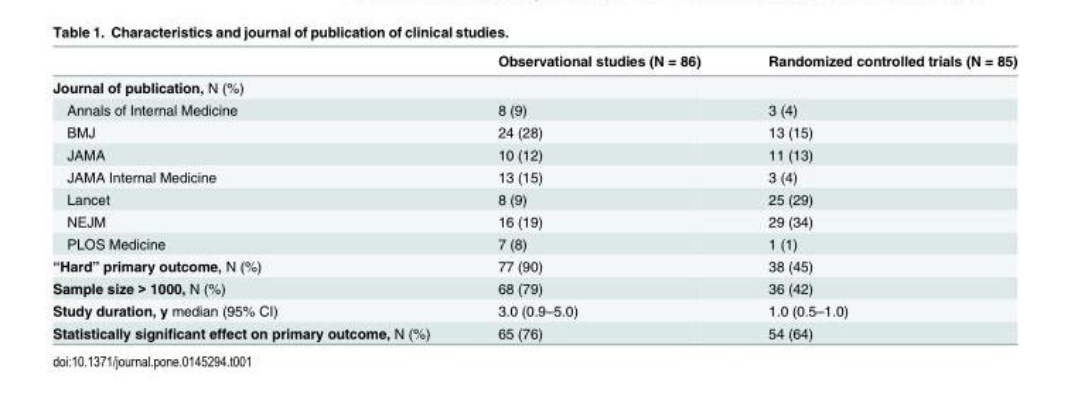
<table><thead><tr><td></td><td>Observational studies (N = 86)</td><td>Randomized controlled trials (N = 85)</td></tr></thead><tbody><tr><td colspan="3">Journal of publication, N (%)</td></tr><tr><td>Annals of Internal Medicine</td><td>8 (9)</td><td>3 (4)</td></tr><tr><td>BMJ</td><td>24 (28)</td><td>13 (15)</td></tr><tr><td>JAMA</td><td>10 (12)</td><td>11 (13)</td></tr><tr><td>JAMA Internal Medicine</td><td>13 (15)</td><td>3 (4)</td></tr><tr><td>Lancet</td><td>8 (9)</td><td>25 (29)</td></tr><tr><td>NEJM</td><td>16 (19)</td><td>29 (34)</td></tr><tr><td>PLOS Medicine</td><td>7 (8)</td><td>1 (1)</td></tr><tr><td>“Hard” primary outcome, N (%)</td><td>77 (90)</td><td>38 (45)</td></tr><tr><td>Sample size &gt; 1000, N (%)</td><td>68 (79)</td><td>36 (42)</td></tr><tr><td>Study duration, y median (95% CI)</td><td>3.0 (0.9–5.0)</td><td>1.0 (0.5–1.0)</td></tr><tr><td>Statistically significant effect on primary outcome, N (%)</td><td>65 (76)</td><td>54 (64)</td></tr></tbody></table>